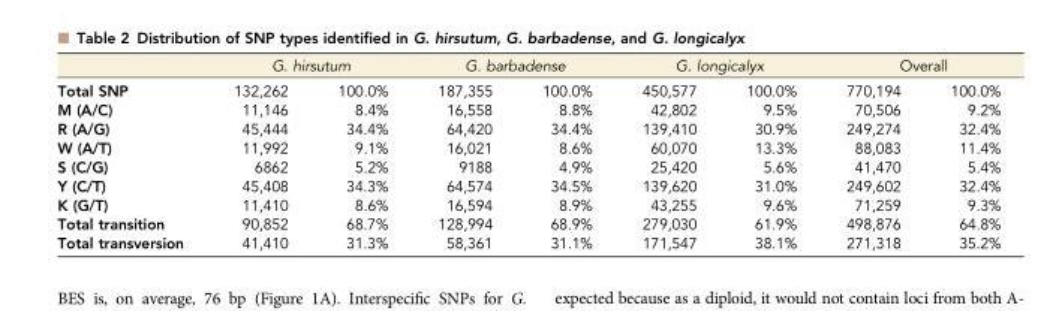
<table><thead><tr><td rowspan="2">Total SNP</td><td colspan="2">G. hirsutum</td><td colspan="2">G. barbadense</td><td colspan="2">G. longicalyx</td><td colspan="2">Overall</td></tr><tr><td>132,262</td><td>100.0%</td><td>187,355</td><td>100.0%</td><td>450,577</td><td>100.0%</td><td>770,194</td><td>100.0%</td></tr></thead><tbody><tr><td>M (A/C)</td><td>11,146</td><td>8.4%</td><td>16,558</td><td>8.8%</td><td>42,802</td><td>9.5%</td><td>70,506</td><td>9.2%</td></tr><tr><td>R (A/G)</td><td>45,444</td><td>34.4%</td><td>64,420</td><td>34.4%</td><td>139,410</td><td>30.9%</td><td>249,274</td><td>32.4%</td></tr><tr><td>W (A/T)</td><td>11,992</td><td>9.1%</td><td>16,021</td><td>8.6%</td><td>60,070</td><td>13.3%</td><td>88,083</td><td>11.4%</td></tr><tr><td>S (C/G)</td><td>6862</td><td>5.2%</td><td>9188</td><td>4.9%</td><td>25,420</td><td>5.6%</td><td>41,470</td><td>5.4%</td></tr><tr><td>Y (C/T)</td><td>45,408</td><td>34.3%</td><td>64,574</td><td>34.5%</td><td>139,620</td><td>31.0%</td><td>249,602</td><td>32.4%</td></tr><tr><td>K (G/T)</td><td>11,410</td><td>8.6%</td><td>16,594</td><td>8.9%</td><td>43,255</td><td>9.6%</td><td>71,259</td><td>9.3%</td></tr><tr><td>Total transition</td><td>90,852</td><td>68.7%</td><td>128,994</td><td>68.9%</td><td>279,030</td><td>61.9%</td><td>498,876</td><td>64.8%</td></tr><tr><td>Total transversion</td><td>41,410</td><td>31.3%</td><td>58,361</td><td>31.1%</td><td>171,547</td><td>38.1%</td><td>271,318</td><td>35.2%</td></tr></tbody></table>